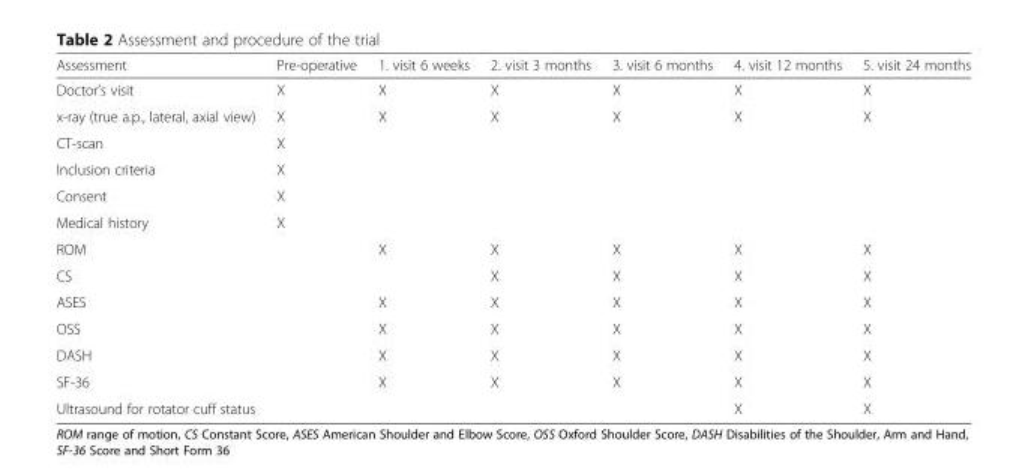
<table><thead><tr><td>Assessment</td><td>Pre-operative</td><td>1. visit 6 weeks</td><td>2. visit 3 months</td><td>3. visit 6 months</td><td>4. visit 12 months</td><td>5. visit 24 months</td></tr></thead><tbody><tr><td>Doctor’s visit</td><td>X</td><td>X</td><td>X</td><td>X</td><td>X</td><td>X</td></tr><tr><td>x-ray (true a.p., lateral, axial view)</td><td>X</td><td>X</td><td>X</td><td>X</td><td>X</td><td>X</td></tr><tr><td>CT-scan</td><td>X</td><td></td><td></td><td></td><td></td><td></td></tr><tr><td>Inclusion criteria</td><td>X</td><td></td><td></td><td></td><td></td><td></td></tr><tr><td>Consent</td><td>X</td><td></td><td></td><td></td><td></td><td></td></tr><tr><td>Medical history</td><td>X</td><td></td><td></td><td></td><td></td><td></td></tr><tr><td>ROM</td><td></td><td>X</td><td>X</td><td>X</td><td>X</td><td>X</td></tr><tr><td>CS</td><td></td><td></td><td>X</td><td>X</td><td>X</td><td>X</td></tr><tr><td>ASES</td><td></td><td>X</td><td>X</td><td>X</td><td>X</td><td>X</td></tr><tr><td>OSS</td><td></td><td>X</td><td>X</td><td>X</td><td>X</td><td>X</td></tr><tr><td>DASH</td><td></td><td>X</td><td>X</td><td>X</td><td>X</td><td>X</td></tr><tr><td>SF-36</td><td></td><td>X</td><td>X</td><td>X</td><td>X</td><td>X</td></tr><tr><td>Ultrasound for rotator cuff status</td><td></td><td></td><td></td><td></td><td>X</td><td>X</td></tr></tbody></table>